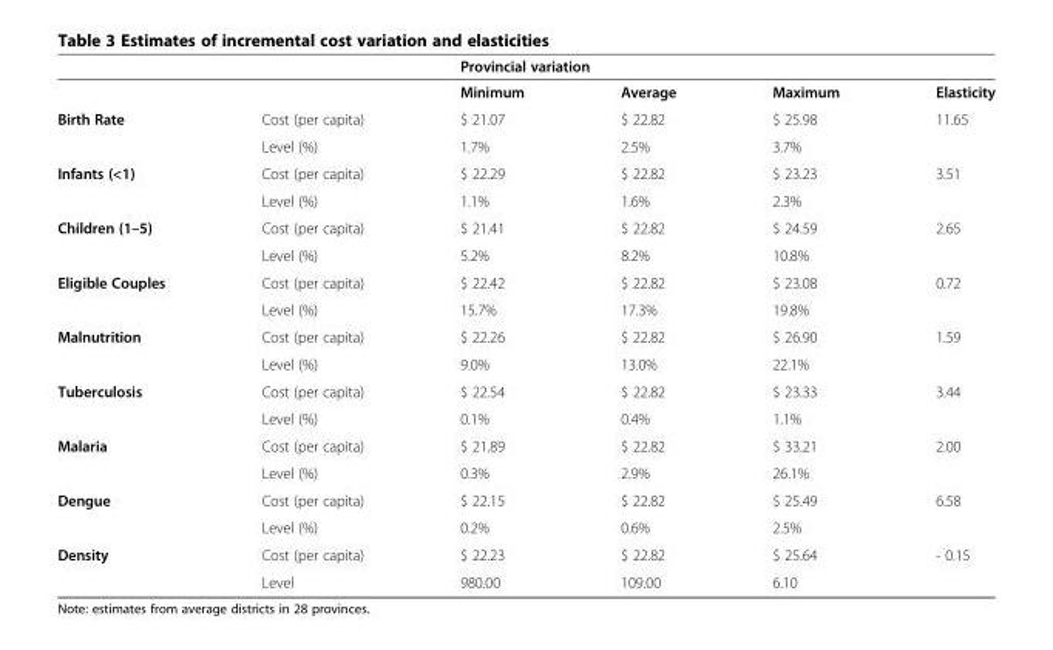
<table><thead><tr><td rowspan="2"></td><td rowspan="2"></td><td colspan="3">Provincial variation</td><td rowspan="2">Elasticity</td></tr><tr><td>Minimum</td><td>Average</td><td>Maximum</td></tr></thead><tbody><tr><td rowspan="2">Birth Rate</td><td>Cost (per capita)</td><td>$ 21.07</td><td>$ 22.82</td><td>$ 25.98</td><td>11.65</td></tr><tr><td>Level (%)</td><td>1.7%</td><td>2.5%</td><td>3.7%</td><td></td></tr><tr><td rowspan="2">Infants (&lt;1)</td><td>Cost (per capita)</td><td>$ 22.29</td><td>$ 22.82</td><td>$ 23.23</td><td>3.51</td></tr><tr><td>Level (%)</td><td>1.1%</td><td>1.6%</td><td>2.3%</td><td></td></tr><tr><td rowspan="2">Children (1–5)</td><td>Cost (per capita)</td><td>$ 21.41</td><td>$ 22.82</td><td>$ 24.59</td><td>2.65</td></tr><tr><td>Level (%)</td><td>5.2%</td><td>8.2%</td><td>10.8%</td><td></td></tr><tr><td rowspan="2">Eligible Couples</td><td>Cost (per capita)</td><td>$ 22.42</td><td>$ 22.82</td><td>$ 23.08</td><td>0.72</td></tr><tr><td>Level (%)</td><td>15.7%</td><td>17.3%</td><td>19.8%</td><td></td></tr><tr><td rowspan="2">Malnutrition</td><td>Cost (per capita)</td><td>$ 22.26</td><td>$ 22.82</td><td>$ 26.90</td><td>1.59</td></tr><tr><td>Level (%)</td><td>9.0%</td><td>13.0%</td><td>22.1%</td><td></td></tr><tr><td rowspan="2">Tuberculosis</td><td>Cost (per capita)</td><td>$ 22.54</td><td>$ 22.82</td><td>$ 23.33</td><td>3.44</td></tr><tr><td>Level (%)</td><td>0.1%</td><td>0.4%</td><td>1.1%</td><td></td></tr><tr><td rowspan="2">Malaria</td><td>Cost (per capita)</td><td>$ 21.89</td><td>$ 22.82</td><td>$ 33.21</td><td>2.00</td></tr><tr><td>Level (%)</td><td>0.3%</td><td>2.9%</td><td>26.1%</td><td></td></tr><tr><td rowspan="2">Dengue</td><td>Cost (per capita)</td><td>$ 22.15</td><td>$ 22.82</td><td>$ 25.49</td><td>6.58</td></tr><tr><td>Level (%)</td><td>0.2%</td><td>0.6%</td><td>2.5%</td><td></td></tr><tr><td rowspan="2">Density</td><td>Cost (per capita)</td><td>$ 22.23</td><td>$ 22.82</td><td>$ 25.64</td><td>- 0.15</td></tr><tr><td>Level</td><td>980.00</td><td>109.00</td><td>6.10</td><td></td></tr></tbody></table>